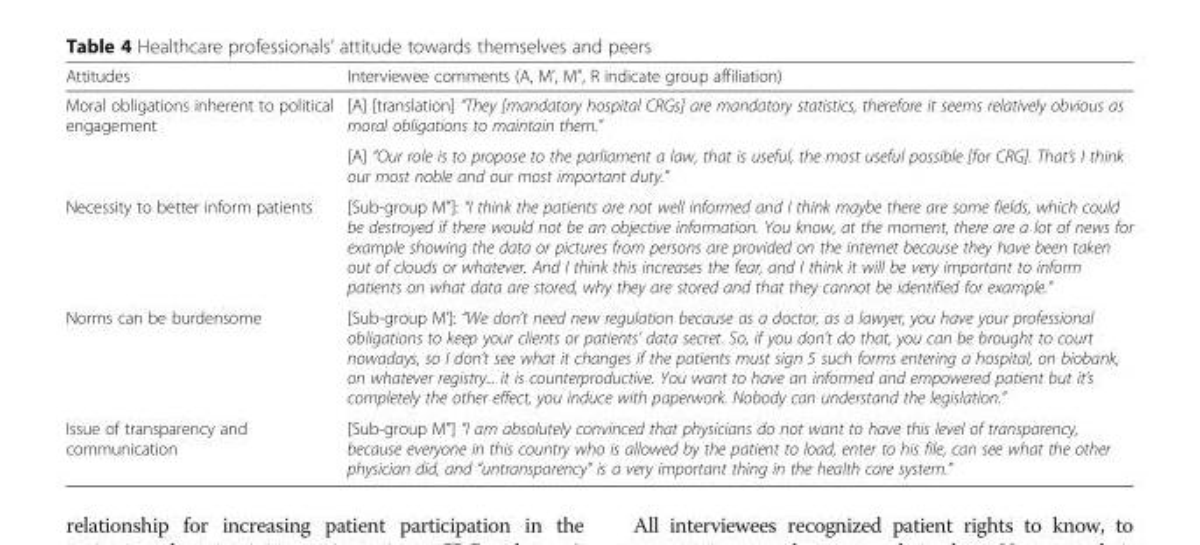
<table><thead><tr><td>Attitudes</td><td>Interviewee comments (A, M’, M”, R indicate group affiliation)</td></tr></thead><tbody><tr><td rowspan="2">Moral obligations inherent to political engagement</td><td>[A] [translation] “They [mandatory hospital CRGs] are mandatory statistics, therefore it seems relatively obvious as moral obligations to maintain them.”</td></tr><tr><td>[A] “Our role is to propose to the parliament a law, that is useful, the most useful possible [for CRG]. That’s I think our most noble and our most important duty.”</td></tr><tr><td>Necessity to better inform patients</td><td>[Sub-group M”]: “I think the patients are not well informed and I think maybe there are some fields, which could be destroyed if there would not be an objective information. You know, at the moment, there are a lot of news for example showing the data or pictures from persons are provided on the internet because they have been taken out of clouds or whatever. And I think this increases the fear, and I think it will be very important to inform patients on what data are stored, why they are stored and that they cannot be identified for example.”</td></tr><tr><td>Norms can be burdensome</td><td>[Sub-group M’]: “We don’t need new regulation because as a doctor, as a lawyer, you have your professional obligations to keep your clients or patients’ data secret. So, if you don’t do that, you can be brought to court nowadays, so I don’t see what it changes if the patients must sign 5 such forms entering a hospital, on biobank, on whatever registry... it is counterproductive. You want to have an informed and empowered patient but it’s completely the other effect, you induce with paperwork. Nobody can understand the legislation.”</td></tr><tr><td>Issue of transparency and communication</td><td>[Sub-group M”] “I am absolutely convinced that physicians do not want to have this level of transparency, because everyone in this country who is allowed by the patient to load, enter to his file, can see what the other physician did, and “untransparency” is a very important thing in the health care system.”</td></tr></tbody></table>